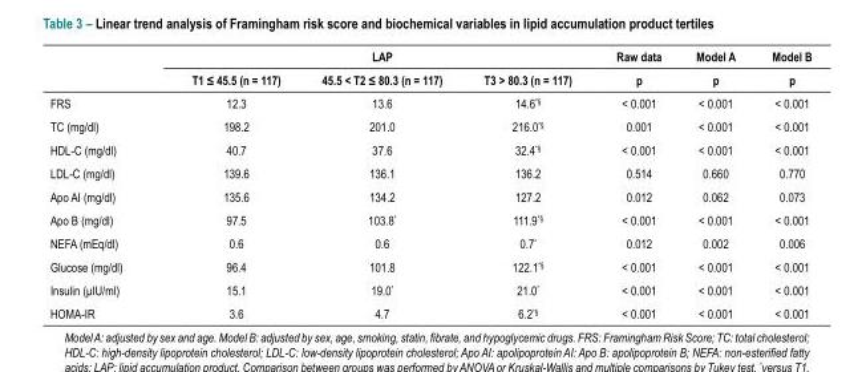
<table><thead><tr><td rowspan="2"></td><td colspan="3">LAP</td><td rowspan="2">Raw data p</td><td rowspan="2">Model A p</td><td rowspan="2">Model B p</td></tr><tr><td>T1 ≤ 45.5 (n = 117)</td><td>45.5 &lt; T2 ≤ 80.3 (n = 117)</td><td>T3 &gt; 80.3 (n = 117)</td></tr></thead><tbody><tr><td>FRS</td><td>12.3</td><td>13.6</td><td>14.6<sup>*§</sup></td><td>&lt; 0.001</td><td>&lt; 0.001</td><td>&lt; 0.001</td></tr><tr><td>TC (mg/dl)</td><td>198.2</td><td>201.0</td><td>216.0<sup>*§</sup></td><td>0.001</td><td>&lt; 0.001</td><td>&lt; 0.001</td></tr><tr><td>HDL-C (mg/dl)</td><td>40.7</td><td>37.6</td><td>32.4<sup>*§</sup></td><td>&lt; 0.001</td><td>&lt; 0.001</td><td>&lt; 0.001</td></tr><tr><td>LDL-C (mg/dl)</td><td>139.6</td><td>136.1</td><td>136.2</td><td>0.514</td><td>0.660</td><td>0.770</td></tr><tr><td>Apo AI (mg/dl)</td><td>135.6</td><td>134.2</td><td>127.2</td><td>0.012</td><td>0.062</td><td>0.073</td></tr><tr><td>Apo B (mg/dl)</td><td>97.5</td><td>103.8*</td><td>111.9<sup>*§</sup></td><td>&lt; 0.001</td><td>&lt; 0.001</td><td>&lt; 0.001</td></tr><tr><td>NEFA (mEq/dl)</td><td>0.6</td><td>0.6</td><td>0.7*</td><td>0.012</td><td>0.002</td><td>0.006</td></tr><tr><td>Glucose (mg/dl)</td><td>96.4</td><td>101.8</td><td>122.1<sup>*§</sup></td><td>&lt; 0.001</td><td>&lt; 0.001</td><td>&lt; 0.001</td></tr><tr><td>Insulin (μIU/ml)</td><td>15.1</td><td>19.0*</td><td>21.0*</td><td>&lt; 0.001</td><td>&lt; 0.001</td><td>&lt; 0.001</td></tr><tr><td>HOMA-IR</td><td>3.6</td><td>4.7</td><td>6.2<sup>*§</sup></td><td>&lt; 0.001</td><td>&lt; 0.001</td><td>&lt; 0.001</td></tr></tbody></table>